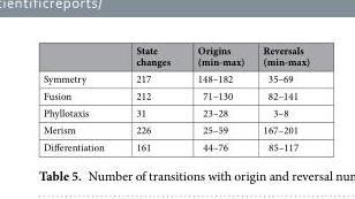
<table><thead><tr><td></td><td>State changes</td><td>Origins (min-max)</td><td>Reversals (min-max)</td></tr></thead><tbody><tr><td>Symmetry</td><td>217</td><td>148–182</td><td>35–69</td></tr><tr><td>Fusion</td><td>212</td><td>71–130</td><td>82–141</td></tr><tr><td>Phyllotaxis</td><td>31</td><td>23–28</td><td>3–8</td></tr><tr><td>Merism</td><td>226</td><td>25–59</td><td>167–201</td></tr><tr><td>Differentiation</td><td>161</td><td>44–76</td><td>85–117</td></tr></tbody></table>